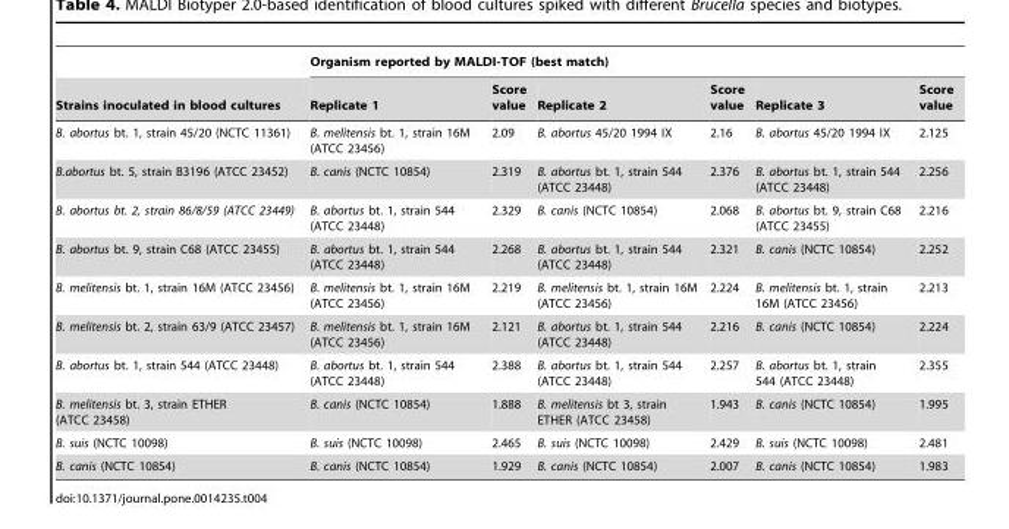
<table><thead><tr><td rowspan="2">Strains inoculated in blood cultures</td><td colspan="6">Organism reported by MALDI-TOF (best match)</td></tr><tr><td>Replicate 1</td><td>Score value</td><td>Replicate 2</td><td>Score value</td><td>Replicate 3</td><td>Score value</td></tr></thead><tbody><tr><td>B. abortus bt. 1, strain 45/20 (NCTC 11361)</td><td>B. melitensis bt. 1, strain 16M (ATCC 23456)</td><td>2.09</td><td>B. abortus 45/20 1994 IX</td><td>2.16</td><td>B. abortus 45/20 1994 IX</td><td>2.125</td></tr><tr><td>B.abortus bt. 5, strain B3196 (ATCC 23452)</td><td>B. canis (NCTC 10854)</td><td>2.319</td><td>B. abortus bt. 1, strain 544 (ATCC 23448)</td><td>2.376</td><td>B. abortus bt. 1, strain 544 (ATCC 23448)</td><td>2.256</td></tr><tr><td>B. abortus bt. 2, strain 86/8/59 (ATCC 23449)</td><td>B. abortus bt. 1, strain 544 (ATCC 23448)</td><td>2.329</td><td>B. canis (NCTC 10854)</td><td>2.068</td><td>B. abortus bt. 9, strain C68 (ATCC 23455)</td><td>2.216</td></tr><tr><td>B. abortus bt. 9, strain C68 (ATCC 23455)</td><td>B. abortus bt. 1, strain 544 (ATCC 23448)</td><td>2.268</td><td>B. abortus bt. 1, strain 544 (ATCC 23448)</td><td>2.321</td><td>B. canis (NCTC 10854)</td><td>2.252</td></tr><tr><td>B. melitensis bt. 1, strain 16M (ATCC 23456)</td><td>B. melitensis bt. 1, strain 16M (ATCC 23456)</td><td>2.219</td><td>B. melitensis bt. 1, strain 16M (ATCC 23456)</td><td>2.224</td><td>B. melitensis bt. 1, strain 16M (ATCC 23456)</td><td>2.213</td></tr><tr><td>B. melitensis bt. 2, strain 63/9 (ATCC 23457)</td><td>B. melitensis bt. 1, strain 16M (ATCC 23456)</td><td>2.121</td><td>B. abortus bt. 1, strain 544 (ATCC 23448)</td><td>2.216</td><td>B. canis (NCTC 10854)</td><td>2.224</td></tr><tr><td>B. abortus bt. 1, strain 544 (ATCC 23448)</td><td>B. abortus bt. 1, strain 544 (ATCC 23448)</td><td>2.388</td><td>B. abortus bt. 1, strain 544 (ATCC 23448)</td><td>2.257</td><td>B. abortus bt. 1, strain 544 (ATCC 23448)</td><td>2.355</td></tr><tr><td>B. melitensis bt. 3, strain ETHER (ATCC 23458)</td><td>B. canis (NCTC 10854)</td><td>1.888</td><td>B. melitensis bt 3, strain ETHER (ATCC 23458)</td><td>1.943</td><td>B. canis (NCTC 10854)</td><td>1.995</td></tr><tr><td>B. suis (NCTC 10098)</td><td>B. suis (NCTC 10098)</td><td>2.465</td><td>B. suis (NCTC 10098)</td><td>2.429</td><td>B. suis (NCTC 10098)</td><td>2.481</td></tr><tr><td>B. canis (NCTC 10854)</td><td>B. canis (NCTC 10854)</td><td>1.929</td><td>B. canis (NCTC 10854)</td><td>2.007</td><td>B. canis (NCTC 10854)</td><td>1.983</td></tr></tbody></table>